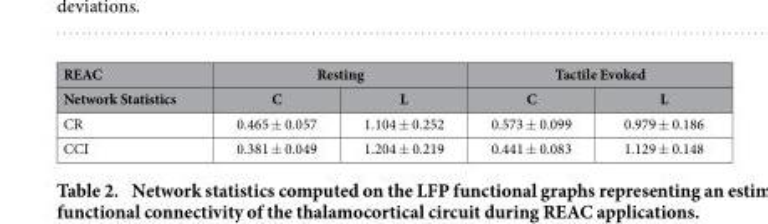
<table><thead><tr><td rowspan="2">REAC Network Statistics</td><td colspan="2">Resting</td><td colspan="2">Tactile Evoked</td></tr><tr><td>C</td><td>L</td><td>C</td><td>L</td></tr></thead><tbody><tr><td>CR</td><td>0.465 ± 0.057</td><td>1.104 ± 0.252</td><td>0.573 ± 0.099</td><td>0.979 ± 0.186</td></tr><tr><td>CCI</td><td>0.381 ± 0.049</td><td>1.204 ± 0.219</td><td>0.441 ± 0.083</td><td>1.129 ± 0.148</td></tr></tbody></table>